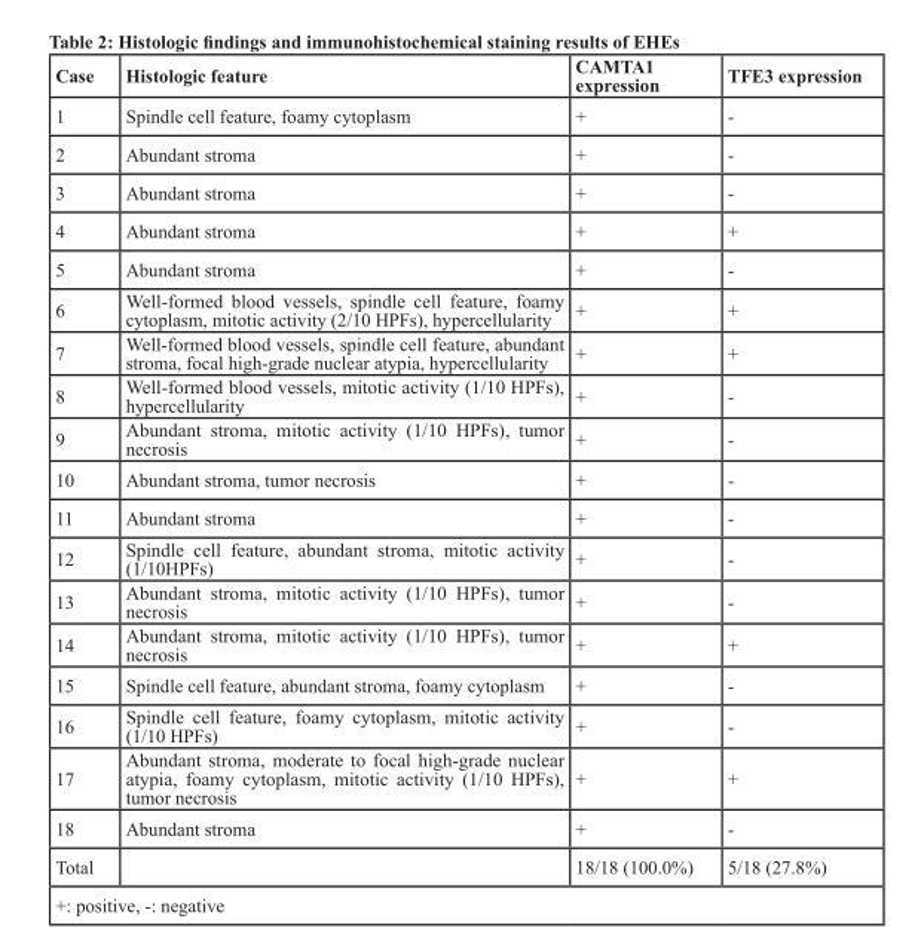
<table><thead><tr><td>Case</td><td>Histologic feature</td><td>CAMTA1 expression</td><td>TFE3 expression</td></tr></thead><tbody><tr><td>1</td><td>Spindle cell feature, foamy cytoplasm</td><td>+</td><td>-</td></tr><tr><td>2</td><td>Abundant stroma</td><td>+</td><td>-</td></tr><tr><td>3</td><td>Abundant stroma</td><td>+</td><td>-</td></tr><tr><td>4</td><td>Abundant stroma</td><td>+</td><td>+</td></tr><tr><td>5</td><td>Abundant stroma</td><td>+</td><td>-</td></tr><tr><td>6</td><td>Well-formed blood vessels, spindle cell feature, foamy cytoplasm, mitotic activity (2/10 HPFs), hypercellularity</td><td>+</td><td>+</td></tr><tr><td>7</td><td>Well-formed blood vessels, spindle cell feature, abundant stroma, focal high-grade nuclear atypia, hypercellularity</td><td>+</td><td>+</td></tr><tr><td>8</td><td>Well-formed blood vessels, mitotic activity (1/10 HPFs), hypercellularity</td><td>+</td><td>-</td></tr><tr><td>9</td><td>Abundant stroma, mitotic activity (1/10 HPFs), tumor necrosis</td><td>+</td><td>-</td></tr><tr><td>10</td><td>Abundant stroma, tumor necrosis</td><td>+</td><td>-</td></tr><tr><td>11</td><td>Abundant stroma</td><td>+</td><td>-</td></tr><tr><td>12</td><td>Spindle cell feature, abundant stroma, mitotic activity (1/10HPFs)</td><td>+</td><td>-</td></tr><tr><td>13</td><td>Abundant stroma, mitotic activity (1/10 HPFs), tumor necrosis</td><td>+</td><td>-</td></tr><tr><td>14</td><td>Abundant stroma, mitotic activity (1/10 HPFs), tumor necrosis</td><td>+</td><td>+</td></tr><tr><td>15</td><td>Spindle cell feature, abundant stroma, foamy cytoplasm</td><td>+</td><td>-</td></tr><tr><td>16</td><td>Spindle cell feature, foamy cytoplasm, mitotic activity (1/10 HPFs)</td><td>+</td><td>-</td></tr><tr><td>17</td><td>Abundant stroma, moderate to focal high-grade nuclear atypia, foamy cytoplasm, mitotic activity (1/10 HPFs), tumor necrosis</td><td>+</td><td>+</td></tr><tr><td>18</td><td>Abundant stroma</td><td>+</td><td>-</td></tr><tr><td>Total</td><td></td><td>18/18 (100.0%)</td><td>5/18 (27.8%)</td></tr></tbody></table>